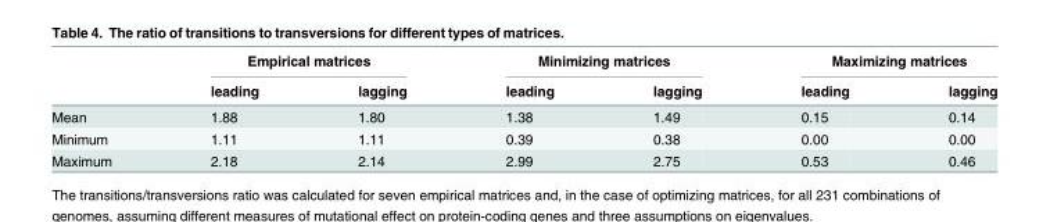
<table><thead><tr><td rowspan="2"></td><td colspan="2">Empirical matrices</td><td colspan="2">Minimizing matrices</td><td colspan="2">Maximizing matrices</td></tr><tr><td>leading</td><td>lagging</td><td>leading</td><td>lagging</td><td>leading</td><td>lagging</td></tr></thead><tbody><tr><td>Mean</td><td>1.88</td><td>1.80</td><td>1.38</td><td>1.49</td><td>0.15</td><td>0.14</td></tr><tr><td>Minimum</td><td>1.11</td><td>1.11</td><td>0.39</td><td>0.38</td><td>0.00</td><td>0.00</td></tr><tr><td>Maximum</td><td>2.18</td><td>2.14</td><td>2.99</td><td>2.75</td><td>0.53</td><td>0.46</td></tr></tbody></table>